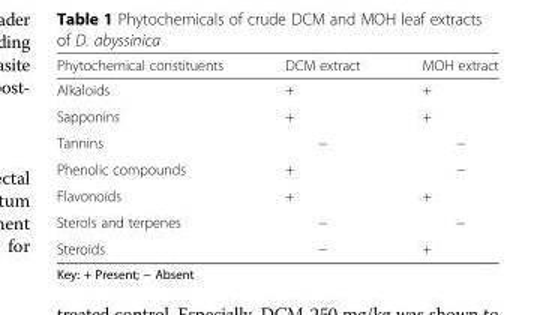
<table><thead><tr><td>Phytochemical constituents</td><td>DCM extract</td><td>MOH extract</td></tr></thead><tbody><tr><td>Alkaloids</td><td>+</td><td>+</td></tr><tr><td>Sapponins</td><td>+</td><td>+</td></tr><tr><td>Tannins</td><td>−</td><td>−</td></tr><tr><td>Phenolic compounds</td><td>+</td><td>−</td></tr><tr><td>Flavonoids</td><td>+</td><td>+</td></tr><tr><td>Sterols and terpenes</td><td>−</td><td>−</td></tr><tr><td>Steroids</td><td>−</td><td>+</td></tr></tbody></table>